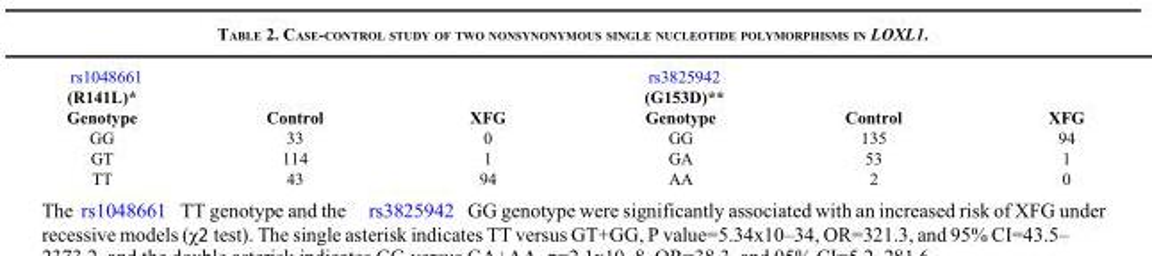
<table><tbody><tr><td colspan="3">rs1048661 (R141L)*</td><td colspan="3">rs3825942 (G153D)**</td></tr><tr><td>Genotype</td><td>Control</td><td>XFG</td><td>Genotype</td><td>Control</td><td>XFG</td></tr><tr><td>GG</td><td>33</td><td>0</td><td>GG</td><td>135</td><td>94</td></tr><tr><td>GT</td><td>114</td><td>1</td><td>GA</td><td>53</td><td>1</td></tr><tr><td>TT</td><td>43</td><td>94</td><td>AA</td><td>2</td><td>0</td></tr></tbody></table>